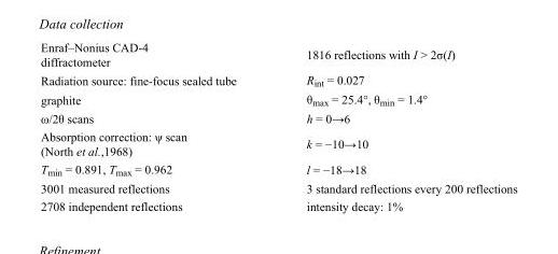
<table><tbody><tr><td>Enraf–Nonius CAD-4 diffractometer</td><td>1816 reflections with I &gt; 2σ(I)</td></tr><tr><td>Radiation source: fine-focus sealed tube</td><td>R<sub>int</sub> = 0.027</td></tr><tr><td>graphite</td><td>θ<sub>max</sub> = 25.4°, θ<sub>min</sub> = 1.4°</td></tr><tr><td>ω/2θ scans</td><td>h = 0→6</td></tr><tr><td>Absorption correction: ψ scan (North et al.,1968)</td><td>k = −10→10</td></tr><tr><td>T<sub>min</sub> = 0.891, T<sub>max</sub> = 0.962</td><td>l = −18→18</td></tr><tr><td>3001 measured reflections</td><td>3 standard reflections every 200 reflections</td></tr><tr><td>2708 independent reflections</td><td>intensity decay: 1%</td></tr></tbody></table>